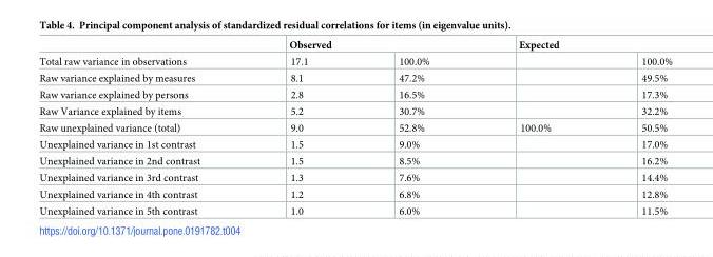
<table><thead><tr><td rowspan="2">Total raw variance in observations</td><td colspan="2">Observed</td><td colspan="2">Expected</td></tr><tr><td>17.1</td><td>100.0%</td><td></td><td>100.0%</td></tr></thead><tbody><tr><td>Raw variance explained by measures</td><td>8.1</td><td>47.2%</td><td></td><td>49.5%</td></tr><tr><td>Raw variance explained by persons</td><td>2.8</td><td>16.5%</td><td></td><td>17.3%</td></tr><tr><td>Raw Variance explained by items</td><td>5.2</td><td>30.7%</td><td></td><td>32.2%</td></tr><tr><td>Raw unexplained variance (total)</td><td>9.0</td><td>52.8%</td><td>100.0%</td><td>50.5%</td></tr><tr><td>Unexplained variance in 1st contrast</td><td>1.5</td><td>9.0%</td><td></td><td>17.0%</td></tr><tr><td>Unexplained variance in 2nd contrast</td><td>1.5</td><td>8.5%</td><td></td><td>16.2%</td></tr><tr><td>Unexplained variance in 3rd contrast</td><td>1.3</td><td>7.6%</td><td></td><td>14.4%</td></tr><tr><td>Unexplained variance in 4th contrast</td><td>1.2</td><td>6.8%</td><td></td><td>12.8%</td></tr><tr><td>Unexplained variance in 5th contrast</td><td>1.0</td><td>6.0%</td><td></td><td>11.5%</td></tr></tbody></table>